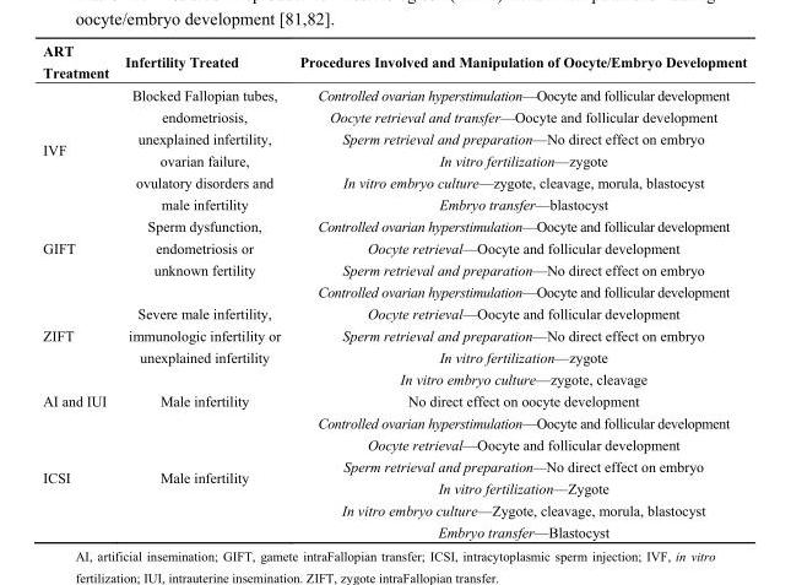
<table><thead><tr><td>ART Treatment</td><td>Infertility Treated</td><td>Procedures Involved and Manipulation of Oocyte/Embryo Development</td></tr></thead><tbody><tr><td rowspan="6">IVF</td><td rowspan="6">Blocked Fallopian tubes, endometriosis, unexplained infertility, ovarian failure, ovulatory disorders and male infertility</td><td>Controlled ovarian hyperstimulation—Oocyte and follicular development</td></tr><tr><td>Oocyte retrieval and transfer—Oocyte and follicular development</td></tr><tr><td>Sperm retrieval and preparation—No direct effect on embryo</td></tr><tr><td>In vitro fertilization—zygote</td></tr><tr><td>In vitro embryo culture—zygote, cleavage, morula, blastocyst</td></tr><tr><td>Embryo transfer—blastocyst</td></tr><tr><td rowspan="3">GIFT</td><td rowspan="3">Sperm dysfunction, endometriosis or unknown fertility</td><td>Controlled ovarian hyperstimulation—Oocyte and follicular development</td></tr><tr><td>Oocyte retrieval—Oocyte and follicular development</td></tr><tr><td>Sperm retrieval and preparation—No direct effect on embryo</td></tr><tr><td rowspan="5">ZIFT</td><td rowspan="5">Severe male infertility, immunologic infertility or unexplained infertility</td><td>Controlled ovarian hyperstimulation—Oocyte and follicular development</td></tr><tr><td>Oocyte retrieval—Oocyte and follicular development</td></tr><tr><td>Sperm retrieval and preparation—No direct effect on embryo</td></tr><tr><td>In vitro fertilization—zygote</td></tr><tr><td>In vitro embryo culture—zygote, cleavage</td></tr><tr><td>AI and IUI</td><td>Male infertility</td><td>No direct effect on oocyte development</td></tr><tr><td rowspan="6">ICSI</td><td rowspan="6">Male infertility</td><td>Controlled ovarian hyperstimulation—Oocyte and follicular development</td></tr><tr><td>Oocyte retrieval—Oocyte and follicular development</td></tr><tr><td>Sperm retrieval and preparation—No direct effect on embryo</td></tr><tr><td>In vitro fertilization—Zygote</td></tr><tr><td>In vitro embryo culture—Zygote, cleavage, morula, blastocyst</td></tr><tr><td>Embryo transfer—Blastocyst</td></tr></tbody></table>